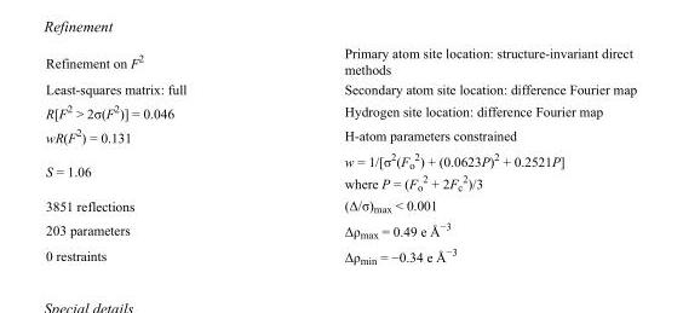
<table><tbody><tr><td>Refinement on F<sup>2</sup></td><td>Primary atom site location: structure-invariant direct methods</td></tr><tr><td>Least-squares matrix: full</td><td>Secondary atom site location: difference Fourier map</td></tr><tr><td>R[F<sup>2</sup> &gt; 2σ(F<sup>2</sup>)] = 0.046</td><td>Hydrogen site location: difference Fourier map</td></tr><tr><td>wR(F<sup>2</sup>) = 0.131</td><td>H-atom parameters constrained</td></tr><tr><td>S = 1.06</td><td>w = 1/[σ<sup>2</sup>(F<sub>o</sub> <sup>2</sup>) + (0.0623P)<sup>2</sup> + 0.2521P] where P = (F<sub>o</sub> <sup>2</sup> + 2F<sub>c</sub> <sup>2</sup>)/3</td></tr><tr><td>3851 reflections</td><td>(Δ/σ)<sub>max</sub> &lt; 0.001</td></tr><tr><td>203 parameters</td><td>Δρ<sub>max</sub> = 0.49 e Å<sup>−3</sup></td></tr><tr><td>0 restraints</td><td>Δρ<sub>min</sub> = −0.34 e Å<sup>−3</sup></td></tr></tbody></table>